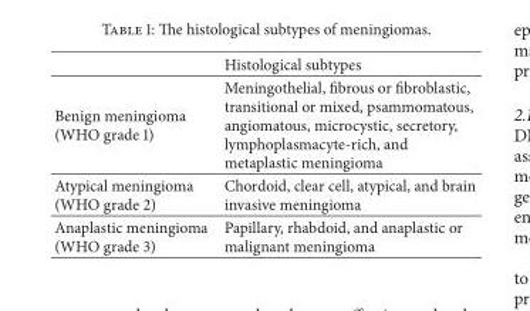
<table><thead><tr><td></td><td>Histological subtypes</td></tr></thead><tbody><tr><td>Benign meningioma (WHO grade 1)</td><td>Meningothelial, fibrous or fibroblastic, transitional or mixed, psammomatous, angiomatous, microcystic, secretory, lymphoplasmacyte-rich, and metaplastic meningioma</td></tr><tr><td>Atypical meningioma (WHO grade 2)</td><td>Chordoid, clear cell, atypical, and brain invasive meningioma</td></tr><tr><td>Anaplastic meningioma (WHO grade 3)</td><td>Papillary, rhabdoid, and anaplastic or malignant meningioma</td></tr></tbody></table>